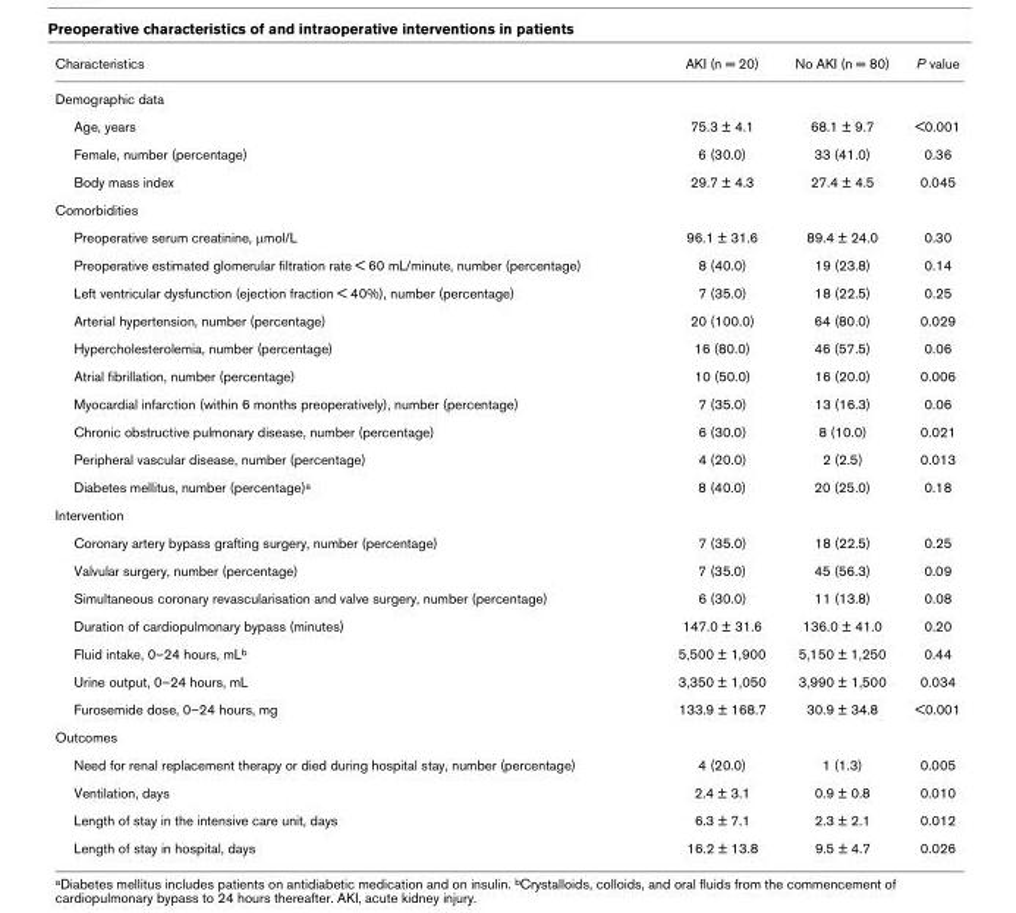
<table><thead><tr><td>Characteristics</td><td>AKI (n = 20)</td><td>No AKI (n = 80)</td><td>P value</td></tr></thead><tbody><tr><td colspan="4">Demographic data</td></tr><tr><td>Age, years</td><td>75.3 ± 4.1</td><td>68.1 ± 9.7</td><td>&lt;0.001</td></tr><tr><td>Female, number (percentage)</td><td>6 (30.0)</td><td>33 (41.0)</td><td>0.36</td></tr><tr><td>Body mass index</td><td>29.7 ± 4.3</td><td>27.4 ± 4.5</td><td>0.045</td></tr><tr><td colspan="4">Comorbidities</td></tr><tr><td>Preoperative serum creatinine, μmol/L</td><td>96.1 ± 31.6</td><td>89.4 ± 24.0</td><td>0.30</td></tr><tr><td>Preoperative estimated glomerular filtration rate &lt; 60 mL/minute, number (percentage)</td><td>8 (40.0)</td><td>19 (23.8)</td><td>0.14</td></tr><tr><td>Left ventricular dysfunction (ejection fraction &lt; 40%), number (percentage)</td><td>7 (35.0)</td><td>18 (22.5)</td><td>0.25</td></tr><tr><td>Arterial hypertension, number (percentage)</td><td>20 (100.0)</td><td>64 (80.0)</td><td>0.029</td></tr><tr><td>Hypercholesterolemia, number (percentage)</td><td>16 (80.0)</td><td>46 (57.5)</td><td>0.06</td></tr><tr><td>Atrial fibrillation, number (percentage)</td><td>10 (50.0)</td><td>16 (20.0)</td><td>0.006</td></tr><tr><td>Myocardial infarction (within 6 months preoperatively), number (percentage)</td><td>7 (35.0)</td><td>13 (16.3)</td><td>0.06</td></tr><tr><td>Chronic obstructive pulmonary disease, number (percentage)</td><td>6 (30.0)</td><td>8 (10.0)</td><td>0.021</td></tr><tr><td>Peripheral vascular disease, number (percentage)</td><td>4 (20.0)</td><td>2 (2.5)</td><td>0.013</td></tr><tr><td>Diabetes mellitus, number (percentage)<sup>a</sup></td><td>8 (40.0)</td><td>20 (25.0)</td><td>0.18</td></tr><tr><td colspan="4">Intervention</td></tr><tr><td>Coronary artery bypass grafting surgery, number (percentage)</td><td>7 (35.0)</td><td>18 (22.5)</td><td>0.25</td></tr><tr><td>Valvular surgery, number (percentage)</td><td>7 (35.0)</td><td>45 (56.3)</td><td>0.09</td></tr><tr><td>Simultaneous coronary revascularisation and valve surgery, number (percentage)</td><td>6 (30.0)</td><td>11 (13.8)</td><td>0.08</td></tr><tr><td>Duration of cardiopulmonary bypass (minutes)</td><td>147.0 ± 31.6</td><td>136.0 ± 41.0</td><td>0.20</td></tr><tr><td>Fluid intake, 0–24 hours, mL<sup>b</sup></td><td>5,500 ± 1,900</td><td>5,150 ± 1,250</td><td>0.44</td></tr><tr><td>Urine output, 0–24 hours, mL</td><td>3,350 ± 1,050</td><td>3,990 ± 1,500</td><td>0.034</td></tr><tr><td>Furosemide dose, 0–24 hours, mg</td><td>133.9 ± 168.7</td><td>30.9 ± 34.8</td><td>&lt;0.001</td></tr><tr><td colspan="4">Outcomes</td></tr><tr><td>Need for renal replacement therapy or died during hospital stay, number (percentage)</td><td>4 (20.0)</td><td>1 (1.3)</td><td>0.005</td></tr><tr><td>Ventilation, days</td><td>2.4 ± 3.1</td><td>0.9 ± 0.8</td><td>0.010</td></tr><tr><td>Length of stay in the intensive care unit, days</td><td>6.3 ± 7.1</td><td>2.3 ± 2.1</td><td>0.012</td></tr><tr><td>Length of stay in hospital, days</td><td>16.2 ± 13.8</td><td>9.5 ± 4.7</td><td>0.026</td></tr></tbody></table>